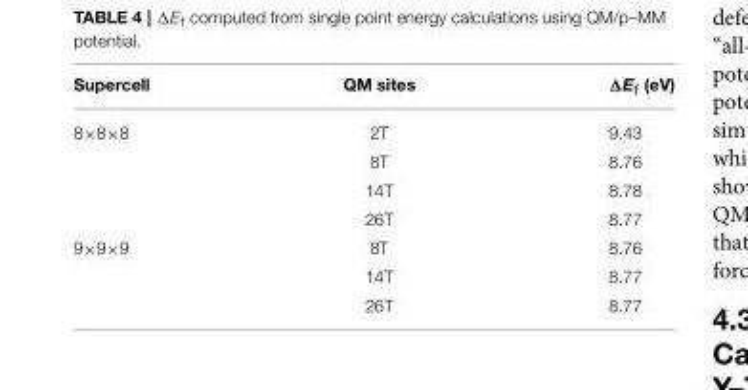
<table><thead><tr><td>Supercell</td><td>QM sites</td><td>ΔE<sub>f</sub> (eV)</td></tr></thead><tbody><tr><td rowspan="4">8×8×8</td><td>2T</td><td>9.43</td></tr><tr><td>8T</td><td>8.76</td></tr><tr><td>14T</td><td>8.78</td></tr><tr><td>26T</td><td>8.77</td></tr><tr><td rowspan="3">9×9×9</td><td>8T</td><td>8.76</td></tr><tr><td>14T</td><td>8.77</td></tr><tr><td>26T</td><td>8.77</td></tr></tbody></table>